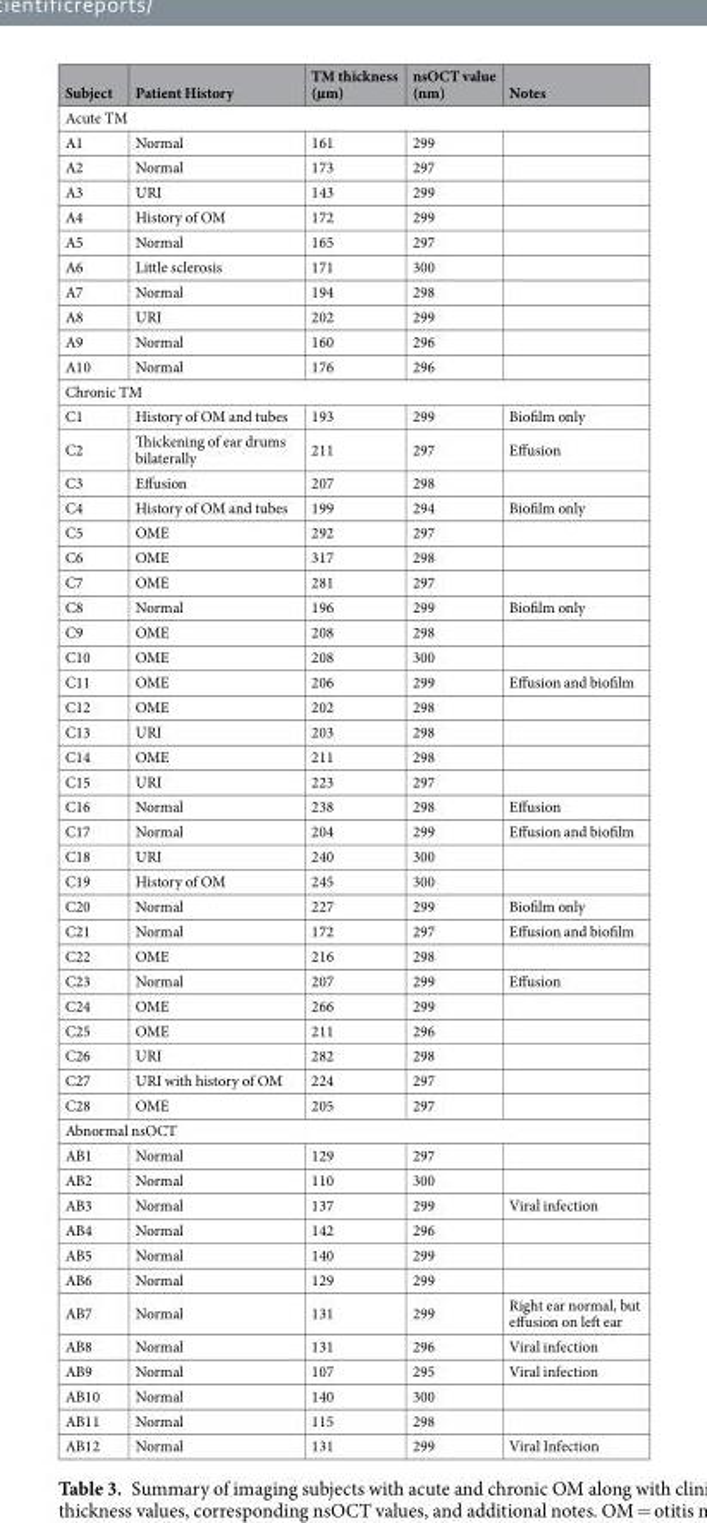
<table><thead><tr><td>Subject</td><td>Patient History</td><td>TM thickness (µm)</td><td>nsOCT value (nm)</td><td>Notes</td></tr></thead><tbody><tr><td colspan="5">Acute TM</td></tr><tr><td>A1</td><td>Normal</td><td>161</td><td>299</td><td></td></tr><tr><td>A2</td><td>Normal</td><td>173</td><td>297</td><td></td></tr><tr><td>A3</td><td>URI</td><td>143</td><td>299</td><td></td></tr><tr><td>A4</td><td>History of OM</td><td>172</td><td>299</td><td></td></tr><tr><td>A5</td><td>Normal</td><td>165</td><td>297</td><td></td></tr><tr><td>A6</td><td>Little sclerosis</td><td>171</td><td>300</td><td></td></tr><tr><td>A7</td><td>Normal</td><td>194</td><td>298</td><td></td></tr><tr><td>A8</td><td>URI</td><td>202</td><td>299</td><td></td></tr><tr><td>A9</td><td>Normal</td><td>160</td><td>296</td><td></td></tr><tr><td>A10</td><td>Normal</td><td>176</td><td>296</td><td></td></tr><tr><td colspan="5">Chronic TM</td></tr><tr><td>C1</td><td>History of OM and tubes</td><td>193</td><td>299</td><td>Biofilm only</td></tr><tr><td>C2</td><td>Thickening of ear drums bilaterally</td><td>211</td><td>297</td><td>Effusion</td></tr><tr><td>C3</td><td>Effusion</td><td>207</td><td>298</td><td></td></tr><tr><td>C4</td><td>History of OM and tubes</td><td>199</td><td>294</td><td>Biofilm only</td></tr><tr><td>C5</td><td>OME</td><td>292</td><td>297</td><td></td></tr><tr><td>C6</td><td>OME</td><td>317</td><td>298</td><td></td></tr><tr><td>C7</td><td>OME</td><td>281</td><td>297</td><td></td></tr><tr><td>C8</td><td>Normal</td><td>196</td><td>299</td><td>Biofilm only</td></tr><tr><td>C9</td><td>OME</td><td>208</td><td>298</td><td></td></tr><tr><td>C10</td><td>OME</td><td>208</td><td>300</td><td></td></tr><tr><td>C11</td><td>OME</td><td>206</td><td>299</td><td>Effusion and biofilm</td></tr><tr><td>C12</td><td>OME</td><td>202</td><td>298</td><td></td></tr><tr><td>C13</td><td>URI</td><td>203</td><td>298</td><td></td></tr><tr><td>C14</td><td>OME</td><td>211</td><td>298</td><td></td></tr><tr><td>C15</td><td>URI</td><td>223</td><td>297</td><td></td></tr><tr><td>C16</td><td>Normal</td><td>238</td><td>298</td><td>Effusion</td></tr><tr><td>C17</td><td>Normal</td><td>204</td><td>299</td><td>Effusion and biofilm</td></tr><tr><td>C18</td><td>URI</td><td>240</td><td>300</td><td></td></tr><tr><td>C19</td><td>History of OM</td><td>245</td><td>300</td><td></td></tr><tr><td>C20</td><td>Normal</td><td>227</td><td>299</td><td>Biofilm only</td></tr><tr><td>C21</td><td>Normal</td><td>172</td><td>297</td><td>Effusion and biofilm</td></tr><tr><td>C22</td><td>OME</td><td>216</td><td>298</td><td></td></tr><tr><td>C23</td><td>Normal</td><td>207</td><td>299</td><td>Effusion</td></tr><tr><td>C24</td><td>OME</td><td>266</td><td>299</td><td></td></tr><tr><td>C25</td><td>OME</td><td>211</td><td>296</td><td></td></tr><tr><td>C26</td><td>URI</td><td>282</td><td>298</td><td></td></tr><tr><td>C27</td><td>URI with history of OM</td><td>224</td><td>297</td><td></td></tr><tr><td>C28</td><td>OME</td><td>205</td><td>297</td><td></td></tr><tr><td colspan="5">Abnormal nsOCT</td></tr><tr><td>AB1</td><td>Normal</td><td>129</td><td>297</td><td></td></tr><tr><td>AB2</td><td>Normal</td><td>110</td><td>300</td><td></td></tr><tr><td>AB3</td><td>Normal</td><td>137</td><td>299</td><td>Viral infection</td></tr><tr><td>AB4</td><td>Normal</td><td>142</td><td>296</td><td></td></tr><tr><td>AB5</td><td>Normal</td><td>140</td><td>299</td><td></td></tr><tr><td>AB6</td><td>Normal</td><td>129</td><td>299</td><td></td></tr><tr><td>AB7</td><td>Normal</td><td>131</td><td>299</td><td>Right ear normal, but effusion on left ear</td></tr><tr><td>AB8</td><td>Normal</td><td>131</td><td>296</td><td>Viral infection</td></tr><tr><td>AB9</td><td>Normal</td><td>107</td><td>295</td><td>Viral infection</td></tr><tr><td>AB10</td><td>Normal</td><td>140</td><td>300</td><td></td></tr><tr><td>AB11</td><td>Normal</td><td>115</td><td>298</td><td></td></tr><tr><td>AB12</td><td>Normal</td><td>131</td><td>299</td><td>Viral Infection</td></tr></tbody></table>